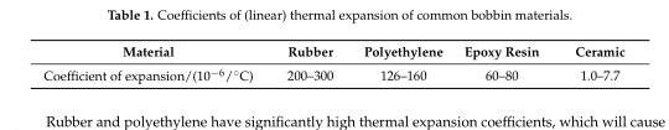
<table><thead><tr><td>Material</td><td>Rubber</td><td>Polyethylene</td><td>Epoxy Resin</td><td>Ceramic</td></tr></thead><tbody><tr><td>Coefficient of expansion/(10´6/˝C)</td><td>200–300</td><td>126–160</td><td>60–80</td><td>1.0–7.7</td></tr></tbody></table>